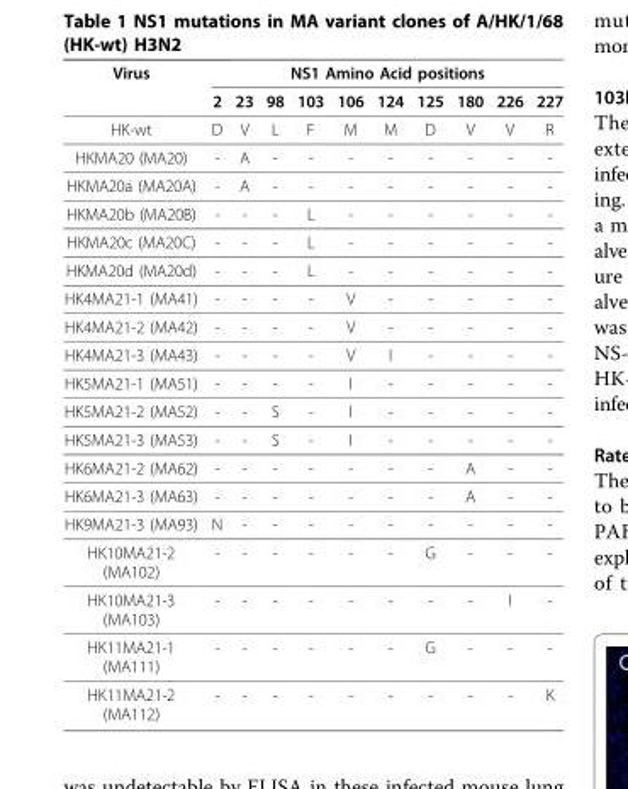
<table><thead><tr><td rowspan="2">Virus</td><td colspan="10">NS1 Amino Acid positions</td></tr><tr><td>2</td><td>23</td><td>98</td><td>103</td><td>106</td><td>124</td><td>125</td><td>180</td><td>226</td><td>227</td></tr></thead><tbody><tr><td>HK-wt</td><td>D</td><td>V</td><td>L</td><td>F</td><td>M</td><td>M</td><td>D</td><td>V</td><td>V</td><td>R</td></tr><tr><td>HKMA20 (MA20)</td><td>-</td><td>A</td><td>-</td><td>-</td><td>-</td><td>-</td><td>-</td><td>-</td><td>-</td><td>-</td></tr><tr><td>HKMA20a (MA20A)</td><td>-</td><td>A</td><td>-</td><td>-</td><td>-</td><td>-</td><td>-</td><td>-</td><td>-</td><td>-</td></tr><tr><td>HKMA20b (MA20B)</td><td>-</td><td>-</td><td>-</td><td>L</td><td>-</td><td>-</td><td>-</td><td>-</td><td>-</td><td>-</td></tr><tr><td>HKMA20c (MA20C)</td><td>-</td><td>-</td><td>-</td><td>L</td><td>-</td><td>-</td><td>-</td><td>-</td><td>-</td><td>-</td></tr><tr><td>HKMA20d (MA20d)</td><td>-</td><td>-</td><td>-</td><td>L</td><td>-</td><td>-</td><td>-</td><td>-</td><td>-</td><td>-</td></tr><tr><td>HK4MA21-1 (MA41)</td><td>-</td><td>-</td><td>-</td><td>-</td><td>V</td><td>-</td><td>-</td><td>-</td><td>-</td><td>-</td></tr><tr><td>HK4MA21-2 (MA42)</td><td>-</td><td>-</td><td>-</td><td>-</td><td>V</td><td>-</td><td>-</td><td>-</td><td>-</td><td>-</td></tr><tr><td>HK4MA21-3 (MA43)</td><td>-</td><td>-</td><td>-</td><td>-</td><td>V</td><td>I</td><td>-</td><td>-</td><td>-</td><td>-</td></tr><tr><td>HK5MA21-1 (MA51)</td><td>-</td><td>-</td><td>-</td><td>-</td><td>I</td><td>-</td><td>-</td><td>-</td><td>-</td><td>-</td></tr><tr><td>HK5MA21-2 (MA52)</td><td>-</td><td>-</td><td>S</td><td>-</td><td>I</td><td>-</td><td>-</td><td>-</td><td>-</td><td>-</td></tr><tr><td>HK5MA21-3 (MA53)</td><td>-</td><td>-</td><td>S</td><td>-</td><td>I</td><td>-</td><td>-</td><td>-</td><td>-</td><td>-</td></tr><tr><td>HK6MA21-2 (MA62)</td><td>-</td><td>-</td><td>-</td><td>-</td><td>-</td><td>-</td><td>-</td><td>A</td><td>-</td><td>-</td></tr><tr><td>HK6MA21-3 (MA63)</td><td>-</td><td>-</td><td>-</td><td>-</td><td>-</td><td>-</td><td>-</td><td>A</td><td>-</td><td>-</td></tr><tr><td>HK9MA21-3 (MA93)</td><td>N</td><td>-</td><td>-</td><td>-</td><td>-</td><td>-</td><td>-</td><td>-</td><td>-</td><td>-</td></tr><tr><td>HK10MA21-2 (MA102)</td><td>-</td><td>-</td><td>-</td><td>-</td><td>-</td><td>-</td><td>G</td><td>-</td><td>-</td><td>-</td></tr><tr><td>HK10MA21-3 (MA103)</td><td>-</td><td>-</td><td>-</td><td>-</td><td>-</td><td>-</td><td>-</td><td>-</td><td>I</td><td>-</td></tr><tr><td>HK11MA21-1 (MA111)</td><td>-</td><td>-</td><td>-</td><td>-</td><td>-</td><td>-</td><td>G</td><td>-</td><td>-</td><td>-</td></tr><tr><td>HK11MA21-2 (MA112)</td><td>-</td><td>-</td><td>-</td><td>-</td><td>-</td><td>-</td><td>-</td><td>-</td><td>-</td><td>K</td></tr></tbody></table>